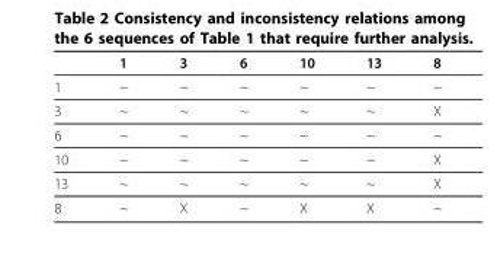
<table><thead><tr><td></td><td>1</td><td>3</td><td>6</td><td>10</td><td>13</td><td>8</td></tr></thead><tbody><tr><td>1</td><td>~</td><td>~</td><td>~</td><td>~</td><td>~</td><td>~</td></tr><tr><td>3</td><td>~</td><td>~</td><td>~</td><td>~</td><td>~</td><td>X</td></tr><tr><td>6</td><td>~</td><td>~</td><td>~</td><td>~</td><td>~</td><td>~</td></tr><tr><td>10</td><td>~</td><td>~</td><td>~</td><td>~</td><td>~</td><td>X</td></tr><tr><td>13</td><td>~</td><td>~</td><td>~</td><td>~</td><td>~</td><td>X</td></tr><tr><td>8</td><td>~</td><td>X</td><td>~</td><td>X</td><td>X</td><td>~</td></tr></tbody></table>